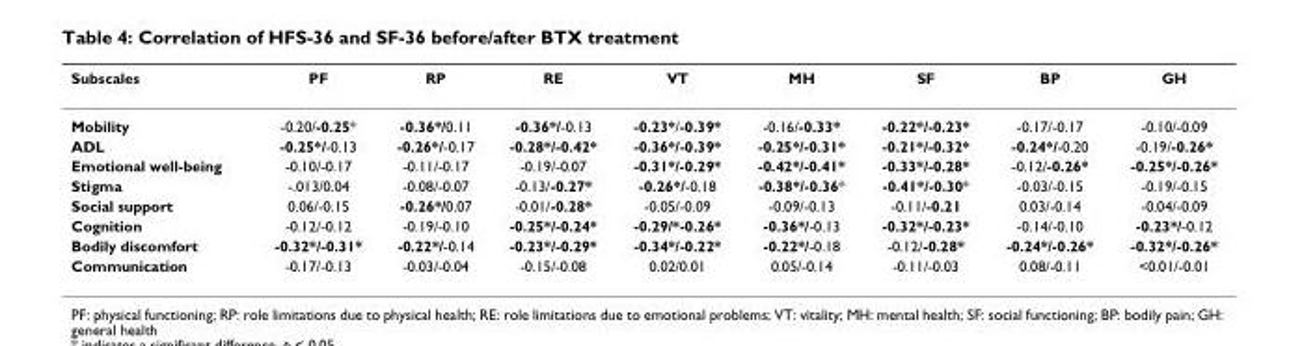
<table><thead><tr><td>Subscales</td><td>PF</td><td>RP</td><td>RE</td><td>VT</td><td>MH</td><td>SF</td><td>BP</td><td>GH</td></tr></thead><tbody><tr><td>Mobility</td><td>-0.20/-0.25*</td><td>-0.36*/0.11</td><td>-0.36*/-0.13</td><td>-0.23*/-0.39*</td><td>-0.16/-0.33*</td><td>-0.22*/-0.23*</td><td>-0.17/-0.17</td><td>-0.10/-0.09</td></tr><tr><td>ADL</td><td>-0.25*/-0.13</td><td>-0.26*/-0.17</td><td>-0.28*/-0.42*</td><td>-0.36*/-0.39*</td><td>-0.25*/-0.31*</td><td>-0.21*/-0.32*</td><td>-0.24*/-0.20</td><td>-0.19/-0.26*</td></tr><tr><td>Emotional well-being</td><td>-0.10/-0.17</td><td>-0.11/-0.17</td><td>-0.19/-0.07</td><td>-0.31*/-0.29*</td><td>-0.42*/-0.41*</td><td>-0.33*/-0.28*</td><td>-0.12/-0.26*</td><td>-0.25*/-0.26*</td></tr><tr><td>Stigma</td><td>-.013/0.04</td><td>-0.08/-0.07</td><td>-0.13/-0.27*</td><td>-0.26*/-0.18</td><td>-0.38*/-0.36*</td><td>-0.41*/-0.30*</td><td>-0.03/-0.15</td><td>-0.19/-0.15</td></tr><tr><td>Social support</td><td>0.06/-0.15</td><td>-0.26*/0.07</td><td>-0.01/-0.28*</td><td>-0.05/-0.09</td><td>-0.09/-0.13</td><td>-0.11/-0.21</td><td>0.03/-0.14</td><td>-0.04/-0.09</td></tr><tr><td>Cognition</td><td>-0.12/-0.12</td><td>-0.19/-0.10</td><td>-0.25*/-0.24*</td><td>-0.29/*-0.26*</td><td>-0.36*/-0.13</td><td>-0.32*/-0.23*</td><td>-0.14/-0.10</td><td>-0.23*/-0.12</td></tr><tr><td>Bodily discomfort</td><td>-0.32*/-0.31*</td><td>-0.22*/-0.14</td><td>-0.23*/-0.29*</td><td>-0.34*/-0.22*</td><td>-0.22*/-0.18</td><td>-0.12/-0.28*</td><td>-0.24*/-0.26*</td><td>-0.32*/-0.26*</td></tr><tr><td>Communication</td><td>-0.17/-0.13</td><td>-0.03/-0.04</td><td>-0.15/-0.08</td><td>0.02/0.01</td><td>0.05/-0.14</td><td>-0.11/-0.03</td><td>0.08/-0.11</td><td>&lt;0.01/-0.01</td></tr></tbody></table>